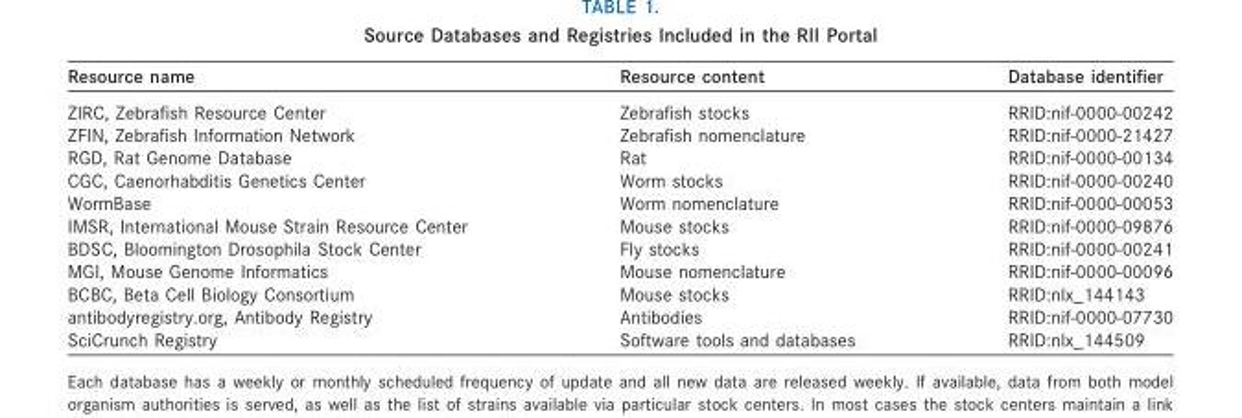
<table><thead><tr><td>Resource name</td><td>Resource content</td><td>Database identifier</td></tr></thead><tbody><tr><td>ZIRC, Zebrafish Resource Center</td><td>Zebrafish stocks</td><td>RRID:nif-0000-00242</td></tr><tr><td>ZFIN, Zebrafish Information Network</td><td>Zebrafish nomenclature</td><td>RRID:nif-0000-21427</td></tr><tr><td>RGD, Rat Genome Database</td><td>Rat</td><td>RRID:nif-0000-00134</td></tr><tr><td>CGC, Caenorhabditis Genetics Center</td><td>Worm stocks</td><td>RRID:nif-0000-00240</td></tr><tr><td>WormBase</td><td>Worm nomenclature</td><td>RRID:nif-0000-00053</td></tr><tr><td>IMSR, International Mouse Strain Resource Center</td><td>Mouse stocks</td><td>RRID:nif-0000-09876</td></tr><tr><td>BDSC, Bloomington Drosophila Stock Center</td><td>Fly stocks</td><td>RRID:nif-0000-00241</td></tr><tr><td>MGI, Mouse Genome Informatics</td><td>Mouse nomenclature</td><td>RRID:nif-0000-00096</td></tr><tr><td>BCBC, Beta Cell Biology Consortium</td><td>Mouse stocks</td><td>RRID:nlx_144143</td></tr><tr><td>antibodyregistry.org, Antibody Registry</td><td>Antibodies</td><td>RRID:nif-0000-07730</td></tr><tr><td>SciCrunch Registry</td><td>Software tools and databases</td><td>RRID:nlx_144509</td></tr></tbody></table>